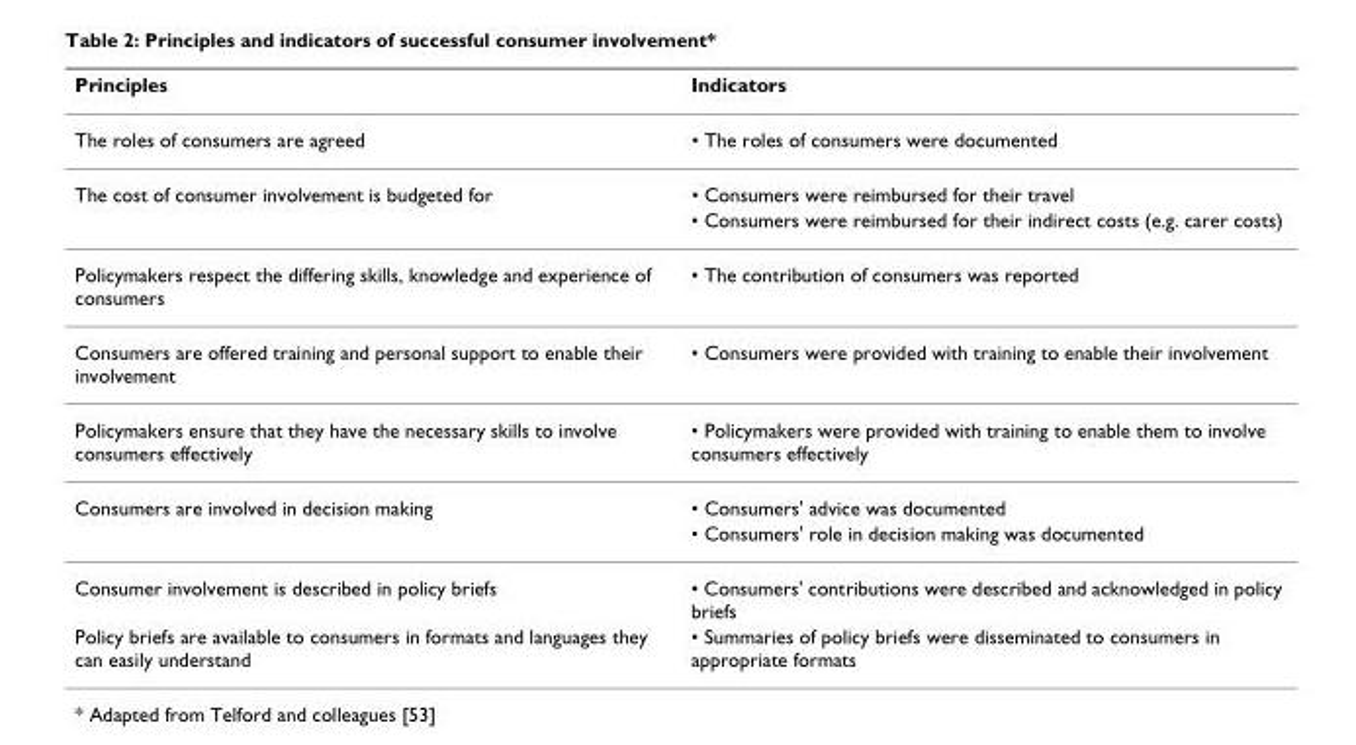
<table><thead><tr><td>Principles</td><td>Indicators</td></tr></thead><tbody><tr><td>The roles of consumers are agreed</td><td>• The roles of consumers were documented</td></tr><tr><td rowspan="2">The cost of consumer involvement is budgeted for</td><td>• Consumers were reimbursed for their travel</td></tr><tr><td>• Consumers were reimbursed for their indirect costs (e.g. carer costs)</td></tr><tr><td>Policymakers respect the differing skills, knowledge and experience of consumers</td><td>• The contribution of consumers was reported</td></tr><tr><td>Consumers are offered training and personal support to enable their involvement</td><td>• Consumers were provided with training to enable their involvement</td></tr><tr><td>Policymakers ensure that they have the necessary skills to involve consumers effectively</td><td>• Policymakers were provided with training to enable them to involve consumers effectively</td></tr><tr><td rowspan="2">Consumers are involved in decision making</td><td>• Consumers&#x27; advice was documented</td></tr><tr><td>• Consumers&#x27; role in decision making was documented</td></tr><tr><td>Consumer involvement is described in policy briefs</td><td>• Consumers&#x27; contributions were described and acknowledged in policy briefs</td></tr><tr><td>Policy briefs are available to consumers in formats and languages they can easily understand</td><td>• Summaries of policy briefs were disseminated to consumers in appropriate formats</td></tr></tbody></table>